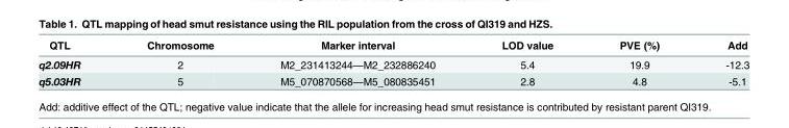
<table><thead><tr><td>QTL</td><td>Chromosome</td><td>Marker interval</td><td>LOD value</td><td>PVE (%)</td><td>Add</td></tr></thead><tbody><tr><td>q2.09HR</td><td>2</td><td>M2_231413244—M2_232886240</td><td>5.4</td><td>19.9</td><td>-12.3</td></tr><tr><td>q5.03HR</td><td>5</td><td>M5_070870568—M5_080835451</td><td>2.8</td><td>4.8</td><td>-5.1</td></tr></tbody></table>